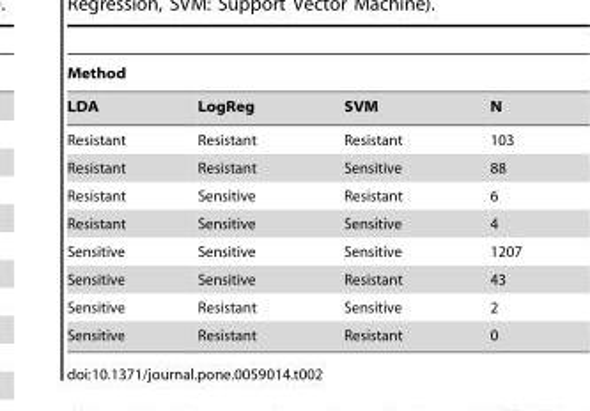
<table><thead><tr><td colspan="4">Method</td></tr><tr><td>LDA</td><td>LogReg</td><td>SVM</td><td>N</td></tr></thead><tbody><tr><td>Resistant</td><td>Resistant</td><td>Resistant</td><td>103</td></tr><tr><td>Resistant</td><td>Resistant</td><td>Sensitive</td><td>88</td></tr><tr><td>Resistant</td><td>Sensitive</td><td>Resistant</td><td>6</td></tr><tr><td>Resistant</td><td>Sensitive</td><td>Sensitive</td><td>4</td></tr><tr><td>Sensitive</td><td>Sensitive</td><td>Sensitive</td><td>1207</td></tr><tr><td>Sensitive</td><td>Sensitive</td><td>Resistant</td><td>43</td></tr><tr><td>Sensitive</td><td>Resistant</td><td>Sensitive</td><td>2</td></tr><tr><td>Sensitive</td><td>Resistant</td><td>Resistant</td><td>0</td></tr></tbody></table>